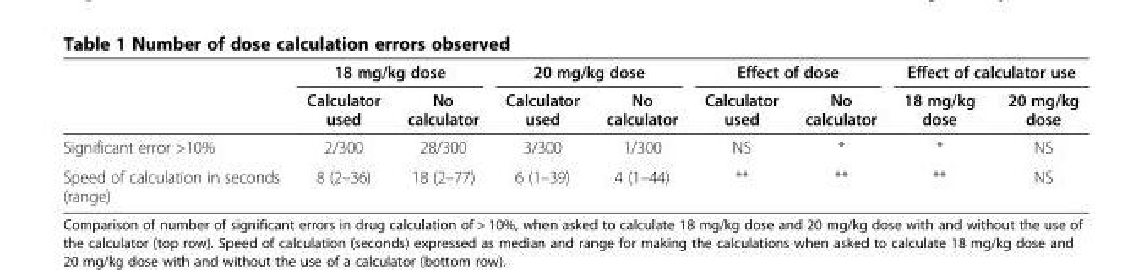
<table><thead><tr><td rowspan="2"></td><td colspan="2">18 mg/kg dose</td><td colspan="2">20 mg/kg dose</td><td colspan="2">Effect of dose</td><td colspan="2">Effect of calculator use</td></tr><tr><td>Calculator used</td><td>No calculator</td><td>Calculator used</td><td>No calculator</td><td>Calculator used</td><td>No calculator</td><td>18 mg/kg dose</td><td>20 mg/kg dose</td></tr></thead><tbody><tr><td>Significant error &gt;10%</td><td>2/300</td><td>28/300</td><td>3/300</td><td>1/300</td><td>NS</td><td>*</td><td>*</td><td>NS</td></tr><tr><td>Speed of calculation in seconds (range)</td><td>8 (2–36)</td><td>18 (2–77)</td><td>6 (1–39)</td><td>4 (1–44)</td><td>**</td><td>**</td><td>**</td><td>NS</td></tr></tbody></table>